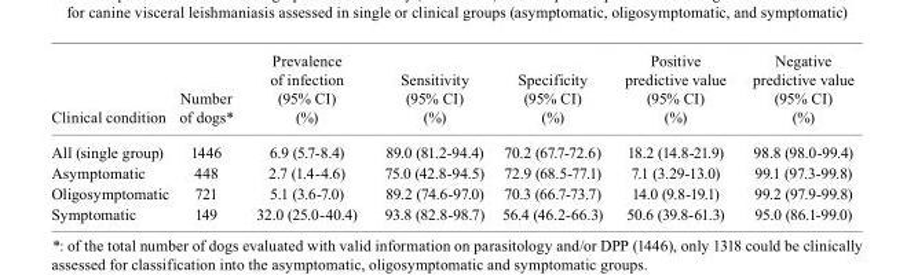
<table><tbody><tr><td>Clinical condition</td><td>Number of dogs*</td><td>Prevalence of infection (95% CI) (%)</td><td>Sensitivity (95% CI) (%)</td><td>Specificity (95% CI) (%)</td><td>Positive predictive value (95% CI) (%)</td><td>Negative predictive value (95% CI) (%)</td></tr><tr><td>All (single group)</td><td>1446</td><td>6.9 (5.7-8.4)</td><td>89.0 (81.2-94.4)</td><td>70.2 (67.7-72.6)</td><td>18.2 (14.8-21.9)</td><td>98.8 (98.0-99.4)</td></tr><tr><td>Asymptomatic</td><td>448</td><td>2.7 (1.4-4.6)</td><td>75.0 (42.8-94.5)</td><td>72.9 (68.5-77.1)</td><td>7.1 (3.29-13.0)</td><td>99.1 (97.3-99.8)</td></tr><tr><td>Oligosymptomatic</td><td>721</td><td>5.1 (3.6-7.0)</td><td>89.2 (74.6-97.0)</td><td>70.3 (66.7-73.7)</td><td>14.0 (9.8-19.1)</td><td>99.2 (97.9-99.8)</td></tr><tr><td>Symptomatic</td><td>149</td><td>32.0 (25.0-40.4)</td><td>93.8 (82.8-98.7)</td><td>56.4 (46.2-66.3)</td><td>50.6 (39.8-61.3)</td><td>95.0 (86.1-99.0)</td></tr></tbody></table>